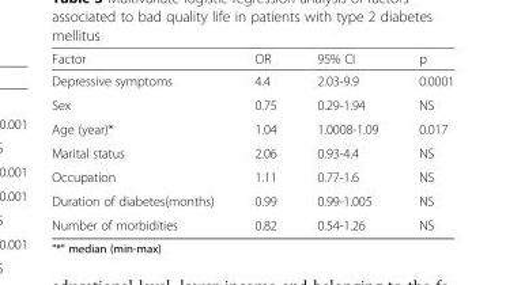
<table><thead><tr><td>Factor</td><td>OR</td><td>95% CI</td><td>p</td></tr></thead><tbody><tr><td>Depressive symptoms</td><td>4.4</td><td>2.03-9.9</td><td>0.0001</td></tr><tr><td>Sex</td><td>0.75</td><td>0.29-1.94</td><td>NS</td></tr><tr><td>Age (year)*</td><td>1.04</td><td>1.0008-1.09</td><td>0.017</td></tr><tr><td>Marital status</td><td>2.06</td><td>0.93-4.4</td><td>NS</td></tr><tr><td>Occupation</td><td>1.11</td><td>0.77-1.6</td><td>NS</td></tr><tr><td>Duration of diabetes(months)</td><td>0.99</td><td>0.99-1.005</td><td>NS</td></tr><tr><td>Number of morbidities</td><td>0.82</td><td>0.54-1.26</td><td>NS</td></tr></tbody></table>